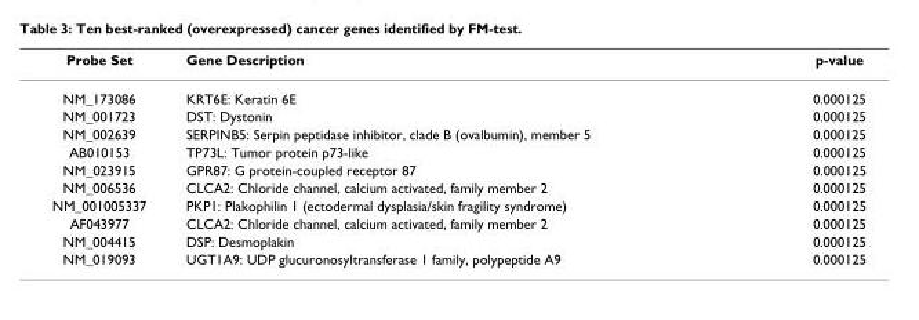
<table><thead><tr><td>Probe Set</td><td>Gene Description</td><td>p-value</td></tr></thead><tbody><tr><td>NM_173086</td><td>KRT6E: Keratin 6E</td><td>0.000125</td></tr><tr><td>NM_001723</td><td>DST: Dystonin</td><td>0.000125</td></tr><tr><td>NM_002639</td><td>SERPINB5: Serpin peptidase inhibitor, clade B (ovalbumin), member 5</td><td>0.000125</td></tr><tr><td>AB010153</td><td>TP73L: Tumor protein p73-like</td><td>0.000125</td></tr><tr><td>NM_023915</td><td>GPR87: G protein-coupled receptor 87</td><td>0.000125</td></tr><tr><td>NM_006536</td><td>CLCA2: Chloride channel, calcium activated, family member 2</td><td>0.000125</td></tr><tr><td>NM_001005337</td><td>PKP1: Plakophilin 1 (ectodermal dysplasia/skin fragility syndrome)</td><td>0.000125</td></tr><tr><td>AF043977</td><td>CLCA2: Chloride channel, calcium activated, family member 2</td><td>0.000125</td></tr><tr><td>NM_004415</td><td>DSP: Desmoplakin</td><td>0.000125</td></tr><tr><td>NM_019093</td><td>UGT1A9: UDP glucuronosyltransferase 1 family, polypeptide A9</td><td>0.000125</td></tr></tbody></table>